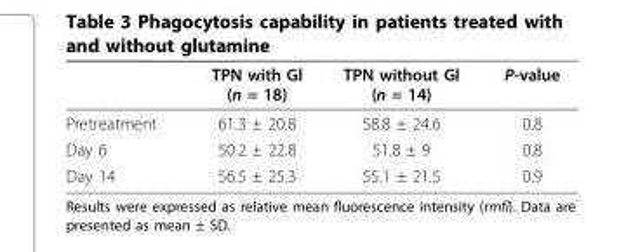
<table><thead><tr><td></td><td>TPN with Gl (n = 18)</td><td>TPN without Gl (n = 14)</td><td>P-value</td></tr></thead><tbody><tr><td>Pretreatment</td><td>61.3 ± 20.8</td><td>58.8 ± 24.6</td><td>0.8</td></tr><tr><td>Day 6</td><td>50.2 ± 22.8</td><td>51.8 ± 9</td><td>0.8</td></tr><tr><td>Day 14</td><td>56.5 ± 25.3</td><td>55.1 ± 21.5</td><td>0.9</td></tr></tbody></table>